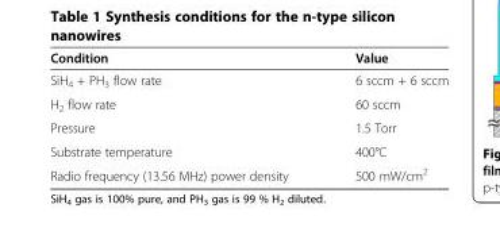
<table><thead><tr><td>Condition</td><td>Value</td></tr></thead><tbody><tr><td>SiH<sub>4</sub> + PH<sub>3</sub> flow rate</td><td>6 sccm + 6 sccm</td></tr><tr><td>H<sub>2</sub> flow rate</td><td>60 sccm</td></tr><tr><td>Pressure</td><td>1.5 Torr</td></tr><tr><td>Substrate temperature</td><td>400°C</td></tr><tr><td>Radio frequency (13.56 MHz) power density</td><td>500 mW/cm<sup>2</sup></td></tr></tbody></table>